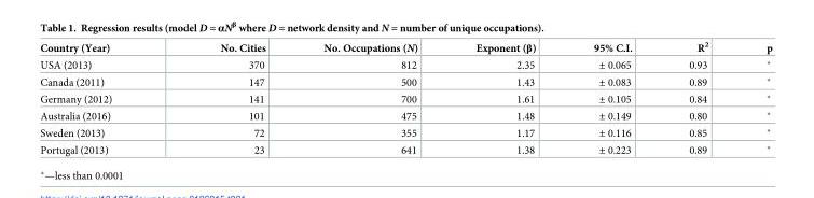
<table><thead><tr><td>Country (Year)</td><td>No. Cities</td><td>No. Occupations (N)</td><td>Exponent (β)</td><td>95% C.I.</td><td>R<sup>2</sup></td><td>p</td></tr></thead><tbody><tr><td>USA (2013)</td><td>370</td><td>812</td><td>2.35</td><td>± 0.065</td><td>0.93</td><td>*</td></tr><tr><td>Canada (2011)</td><td>147</td><td>500</td><td>1.43</td><td>± 0.083</td><td>0.89</td><td>*</td></tr><tr><td>Germany (2012)</td><td>141</td><td>700</td><td>1.61</td><td>± 0.105</td><td>0.84</td><td>*</td></tr><tr><td>Australia (2016)</td><td>101</td><td>475</td><td>1.48</td><td>± 0.149</td><td>0.80</td><td>*</td></tr><tr><td>Sweden (2013)</td><td>72</td><td>355</td><td>1.17</td><td>± 0.116</td><td>0.85</td><td>*</td></tr><tr><td>Portugal (2013)</td><td>23</td><td>641</td><td>1.38</td><td>± 0.223</td><td>0.89</td><td>*</td></tr></tbody></table>